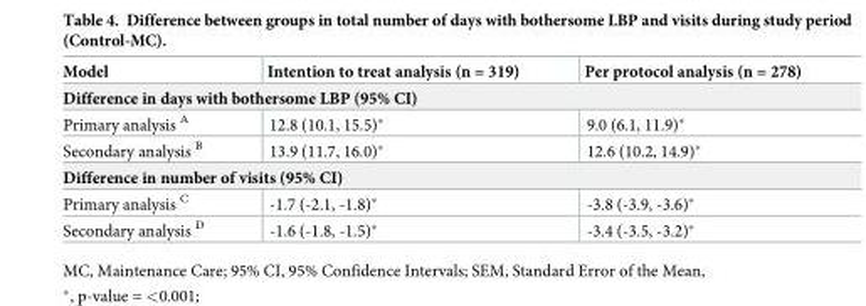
<table><thead><tr><td>Model</td><td>Intention to treat analysis (n = 319)</td><td>Per protocol analysis (n = 278)</td></tr></thead><tbody><tr><td colspan="3">Difference in days with bothersome LBP (95% CI)</td></tr><tr><td>Primary analysis <sup>A</sup></td><td>12.8 (10.1, 15.5)*</td><td>9.0 (6.1, 11.9)*</td></tr><tr><td>Secondary analysis <sup>B</sup></td><td>13.9 (11.7, 16.0)*</td><td>12.6 (10.2, 14.9)*</td></tr><tr><td colspan="3">Difference in number of visits (95% CI)</td></tr><tr><td>Primary analysis <sup>C</sup></td><td>-1.7 (-2.1, -1.8)*</td><td>-3.8 (-3.9, -3.6)*</td></tr><tr><td>Secondary analysis <sup>D</sup></td><td>-1.6 (-1.8, -1.5)*</td><td>-3.4 (-3.5, -3.2)*</td></tr></tbody></table>